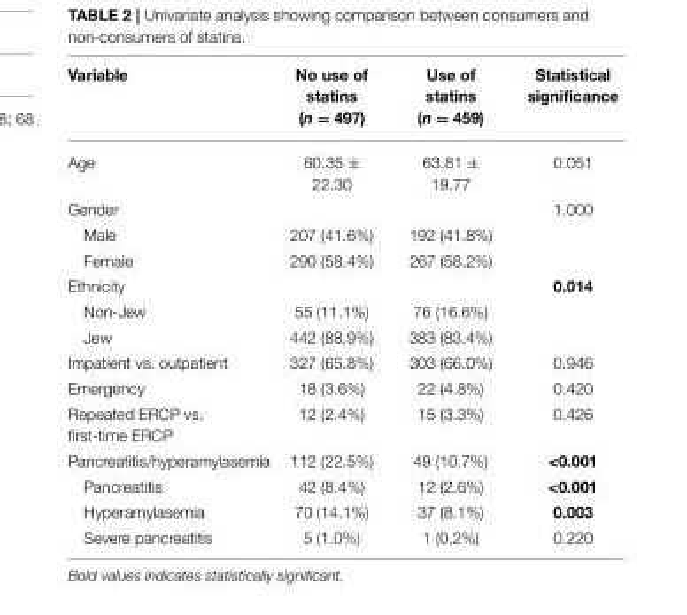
<table><thead><tr><td>Variable</td><td>No use of statins (n = 497)</td><td>Use of statins (n = 459)</td><td>Statistical significance</td></tr></thead><tbody><tr><td>Age</td><td>60.35 ± 22.30</td><td>63.81 ± 19.77</td><td>0.051</td></tr><tr><td>Gender</td><td></td><td></td><td>1.000</td></tr><tr><td>Male</td><td>207 (41.6%)</td><td>192 (41.8%)</td><td></td></tr><tr><td>Female</td><td>290 (58.4%)</td><td>267 (58.2%)</td><td></td></tr><tr><td>Ethnicity</td><td></td><td></td><td>0.014</td></tr><tr><td>Non-Jew</td><td>55 (11.1%)</td><td>76 (16.6%)</td><td></td></tr><tr><td>Jew</td><td>442 (88.9%)</td><td>383 (83.4%)</td><td></td></tr><tr><td>Impatient vs. outpatient</td><td>327 (65.8%)</td><td>303 (66.0%)</td><td>0.946</td></tr><tr><td>Emergency</td><td>18 (3.6%)</td><td>22 (4.8%)</td><td>0.420</td></tr><tr><td>Repeated ERCP vs. first-time ERCP</td><td>12 (2.4%)</td><td>15 (3.3%)</td><td>0.426</td></tr><tr><td>Pancreatitis/hyperamylasemia</td><td>112 (22.5%)</td><td>49 (10.7%)</td><td>&lt;0.001</td></tr><tr><td>Pancreatitis</td><td>42 (8.4%)</td><td>12 (2.6%)</td><td>&lt;0.001</td></tr><tr><td>Hyperamylasemia</td><td>70 (14.1%)</td><td>37 (8.1%)</td><td>0.003</td></tr><tr><td>Severe pancreatitis</td><td>5 (1.0%)</td><td>1 (0.2%)</td><td>0.220</td></tr></tbody></table>